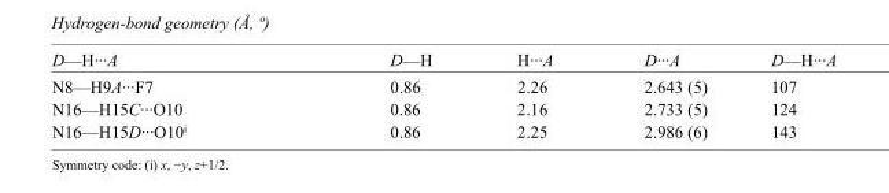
<table><tbody><tr><td>D—H···A</td><td>D—H</td><td>H···A</td><td>D···A</td><td>D—H···A</td></tr><tr><td>N8—H9A···F7</td><td>0.86</td><td>2.26</td><td>2.643 (5)</td><td>107</td></tr><tr><td>N16—H15C···O10</td><td>0.86</td><td>2.16</td><td>2.733 (5)</td><td>124</td></tr><tr><td>N16—H15D···O10<sup>i</sup></td><td>0.86</td><td>2.25</td><td>2.986 (6)</td><td>143</td></tr></tbody></table>